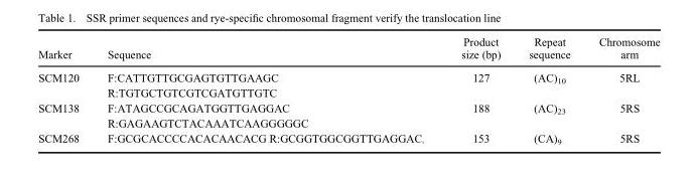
<table><thead><tr><td>Marker</td><td>Sequence</td><td>Product size (bp)</td><td>Repeat sequence</td><td>Chromosome arm</td></tr></thead><tbody><tr><td rowspan="2">SCM120</td><td>F:CATTGTTGCGAGTGTTGAAGC</td><td>127</td><td>(AC)<sub>10</sub></td><td>5RL</td></tr><tr><td>R:TGTGCTGTCGTCGATGTTGTC</td><td></td><td></td><td></td></tr><tr><td rowspan="2">SCM138</td><td>F:ATAGCCGCAGATGGTTGAGGAC</td><td>188</td><td>(AC)<sub>23</sub></td><td>5RS</td></tr><tr><td>R:GAGAAGTCTACAAATCAAGGGGGC</td><td></td><td></td><td></td></tr><tr><td>SCM268</td><td>F:GCGCACCCCACACAACACG R:GCGGTGGCGGTTGAGGAC，</td><td>153</td><td>(CA)<sub>9</sub></td><td>5RS</td></tr></tbody></table>